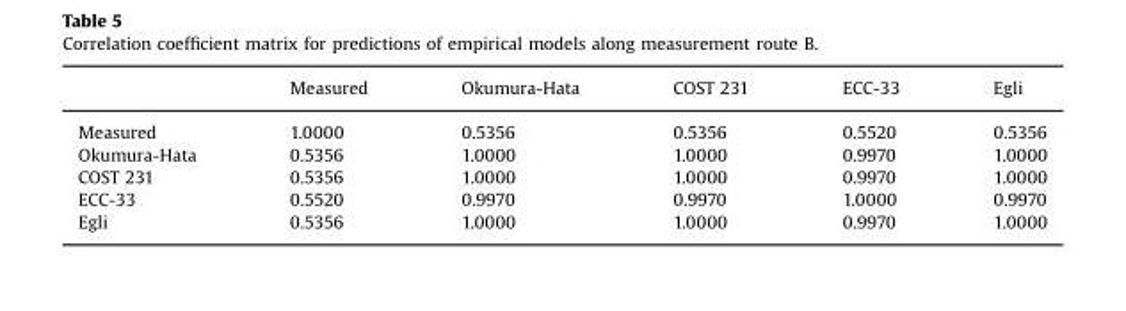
<table><thead><tr><td></td><td>Measured</td><td>Okumura-Hata</td><td>COST 231</td><td>ECC-33</td><td>Egli</td></tr></thead><tbody><tr><td>Measured</td><td>1.0000</td><td>0.5356</td><td>0.5356</td><td>0.5520</td><td>0.5356</td></tr><tr><td>Okumura-Hata</td><td>0.5356</td><td>1.0000</td><td>1.0000</td><td>0.9970</td><td>1.0000</td></tr><tr><td>COST 231</td><td>0.5356</td><td>1.0000</td><td>1.0000</td><td>0.9970</td><td>1.0000</td></tr><tr><td>ECC-33</td><td>0.5520</td><td>0.9970</td><td>0.9970</td><td>1.0000</td><td>0.9970</td></tr><tr><td>Egli</td><td>0.5356</td><td>1.0000</td><td>1.0000</td><td>0.9970</td><td>1.0000</td></tr></tbody></table>